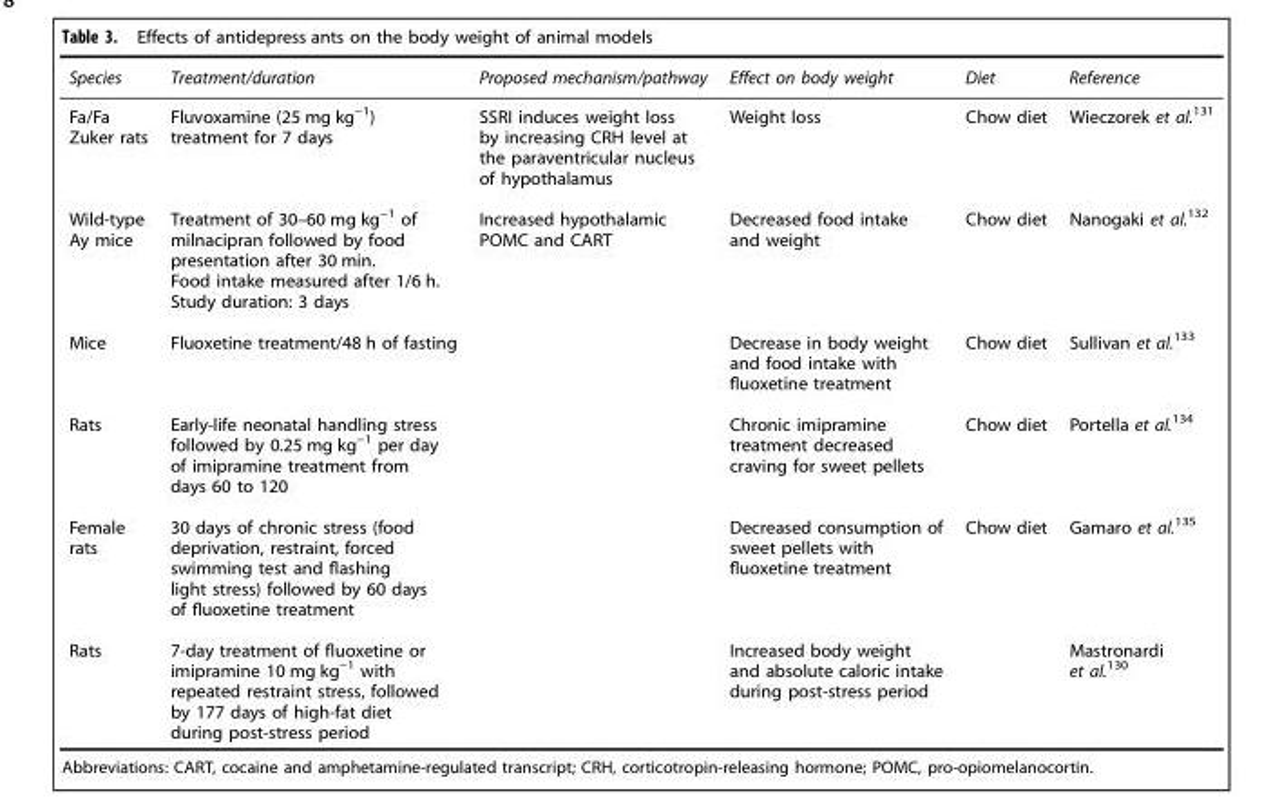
<table><thead><tr><td>Species</td><td>Treatment/duration</td><td>Proposed mechanism/pathway</td><td>Effect on body weight</td><td>Diet</td><td>Reference</td></tr></thead><tbody><tr><td>Fa/Fa Zuker rats</td><td>Fluvoxamine (25 mg kg<sup>−1</sup>) treatment for 7 days</td><td>SSRI induces weight loss by increasing CRH level at the paraventricular nucleus of hypothalamus</td><td>Weight loss</td><td>Chow diet</td><td>Wieczorek et al.<sup>131</sup></td></tr><tr><td>Wild-type Ay mice</td><td>Treatment of 30–60 mg kg<sup>−1</sup> of milnacipran followed by food presentation after 30 min. Food intake measured after 1/6 h. Study duration: 3 days</td><td>Increased hypothalamic POMC and CART</td><td>Decreased food intake and weight</td><td>Chow diet</td><td>Nanogaki et al.<sup>132</sup></td></tr><tr><td>Mice</td><td>Fluoxetine treatment/48 h of fasting</td><td></td><td>Decrease in body weight and food intake with fluoxetine treatment</td><td>Chow diet</td><td>Sullivan et al.<sup>133</sup></td></tr><tr><td>Rats</td><td>Early-life neonatal handling stress followed by 0.25 mg kg<sup>−1</sup> per day of imipramine treatment from days 60 to 120</td><td></td><td>Chronic imipramine treatment decreased craving for sweet pellets</td><td>Chow diet</td><td>Portella et al.<sup>134</sup></td></tr><tr><td>Female rats</td><td>30 days of chronic stress (food deprivation, restraint, forced swimming test and flashing light stress) followed by 60 days of fluoxetine treatment</td><td></td><td>Decreased consumption of sweet pellets with fluoxetine treatment</td><td>Chow diet</td><td>Gamaro et al.<sup>135</sup></td></tr><tr><td>Rats</td><td>7-day treatment of fluoxetine or imipramine 10 mg kg<sup>−1</sup> with repeated restraint stress, followed by 177 days of high-fat diet during post-stress period</td><td></td><td>Increased body weight and absolute caloric intake during post-stress period</td><td></td><td>Mastronardi et al.<sup>130</sup></td></tr></tbody></table>